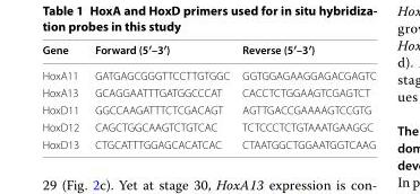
<table><thead><tr><td>Gene</td><td>Forward (5′–3′)</td><td>Reverse (5′–3′)</td></tr></thead><tbody><tr><td>HoxA11</td><td>GATGAGCGGGTTCCTTGTGGC</td><td>GGTGGAGAAGGAGACGAGTC</td></tr><tr><td>HoxA13</td><td>GCAGGAATTTGATGGCCCAT</td><td>CACCTCTGGAAGTCGAGTCT</td></tr><tr><td>HoxD11</td><td>GGCCAAGATTTCTCGACAGT</td><td>AGTTGACCGAAAAGTCCGTG</td></tr><tr><td>HoxD12</td><td>CAGCTGGCAAGTCTGTCAC</td><td>TCTCCCTCTGTAAATGAAGGC</td></tr><tr><td>HoxD13</td><td>CTGCATTTGGAGCACATCAC</td><td>CTAATGGCTGGAATGGTCAAG</td></tr></tbody></table>